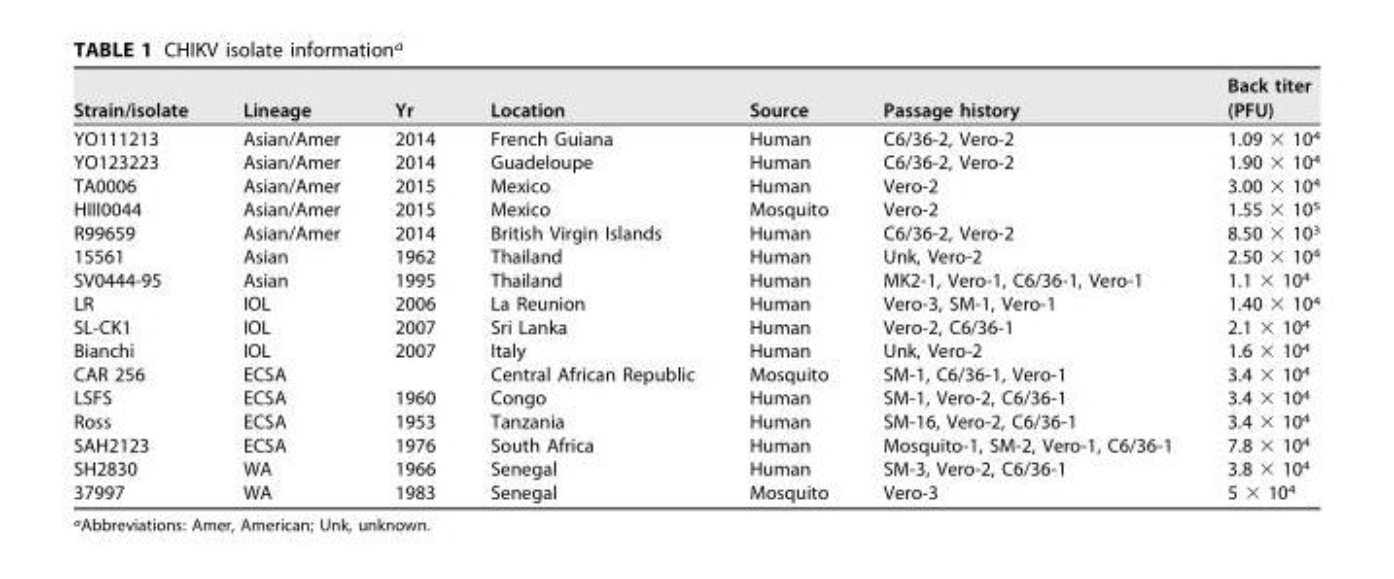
<table><thead><tr><td>Strain/isolate</td><td>Lineage</td><td>Yr</td><td>Location</td><td>Source</td><td>Passage history</td><td>Back titer (PFU)</td></tr></thead><tbody><tr><td>YO111213</td><td>Asian/Amer</td><td>2014</td><td>French Guiana</td><td>Human</td><td>C6/36-2, Vero-2</td><td>1.09 × 10<sup>4</sup></td></tr><tr><td>YO123223</td><td>Asian/Amer</td><td>2014</td><td>Guadeloupe</td><td>Human</td><td>C6/36-2, Vero-2</td><td>1.90 × 10<sup>4</sup></td></tr><tr><td>TA0006</td><td>Asian/Amer</td><td>2015</td><td>Mexico</td><td>Human</td><td>Vero-2</td><td>3.00 × 10<sup>4</sup></td></tr><tr><td>HIII0044</td><td>Asian/Amer</td><td>2015</td><td>Mexico</td><td>Mosquito</td><td>Vero-2</td><td>1.55 × 10<sup>5</sup></td></tr><tr><td>R99659</td><td>Asian/Amer</td><td>2014</td><td>British Virgin Islands</td><td>Human</td><td>C6/36-2, Vero-2</td><td>8.50 × 10<sup>3</sup></td></tr><tr><td>15561</td><td>Asian</td><td>1962</td><td>Thailand</td><td>Human</td><td>Unk, Vero-2</td><td>2.50 × 10<sup>4</sup></td></tr><tr><td>SV0444-95</td><td>Asian</td><td>1995</td><td>Thailand</td><td>Human</td><td>MK2-1, Vero-1, C6/36-1, Vero-1</td><td>1.1 × 10<sup>4</sup></td></tr><tr><td>LR</td><td>IOL</td><td>2006</td><td>La Reunion</td><td>Human</td><td>Vero-3, SM-1, Vero-1</td><td>1.40 × 10<sup>4</sup></td></tr><tr><td>SL-CK1</td><td>IOL</td><td>2007</td><td>Sri Lanka</td><td>Human</td><td>Vero-2, C6/36-1</td><td>2.1 × 10<sup>4</sup></td></tr><tr><td>Bianchi</td><td>IOL</td><td>2007</td><td>Italy</td><td>Human</td><td>Unk, Vero-2</td><td>1.6 × 10<sup>4</sup></td></tr><tr><td>CAR 256</td><td>ECSA</td><td></td><td>Central African Republic</td><td>Mosquito</td><td>SM-1, C6/36-1, Vero-1</td><td>3.4 × 10<sup>4</sup></td></tr><tr><td>LSFS</td><td>ECSA</td><td>1960</td><td>Congo</td><td>Human</td><td>SM-1, Vero-2, C6/36-1</td><td>3.4 × 10<sup>4</sup></td></tr><tr><td>Ross</td><td>ECSA</td><td>1953</td><td>Tanzania</td><td>Human</td><td>SM-16, Vero-2, C6/36-1</td><td>3.4 × 10<sup>4</sup></td></tr><tr><td>SAH2123</td><td>ECSA</td><td>1976</td><td>South Africa</td><td>Human</td><td>Mosquito-1, SM-2, Vero-1, C6/36-1</td><td>7.8 × 10<sup>4</sup></td></tr><tr><td>SH2830</td><td>WA</td><td>1966</td><td>Senegal</td><td>Human</td><td>SM-3, Vero-2, C6/36-1</td><td>3.8 × 10<sup>4</sup></td></tr><tr><td>37997</td><td>WA</td><td>1983</td><td>Senegal</td><td>Mosquito</td><td>Vero-3</td><td>5 × 10<sup>4</sup></td></tr></tbody></table>